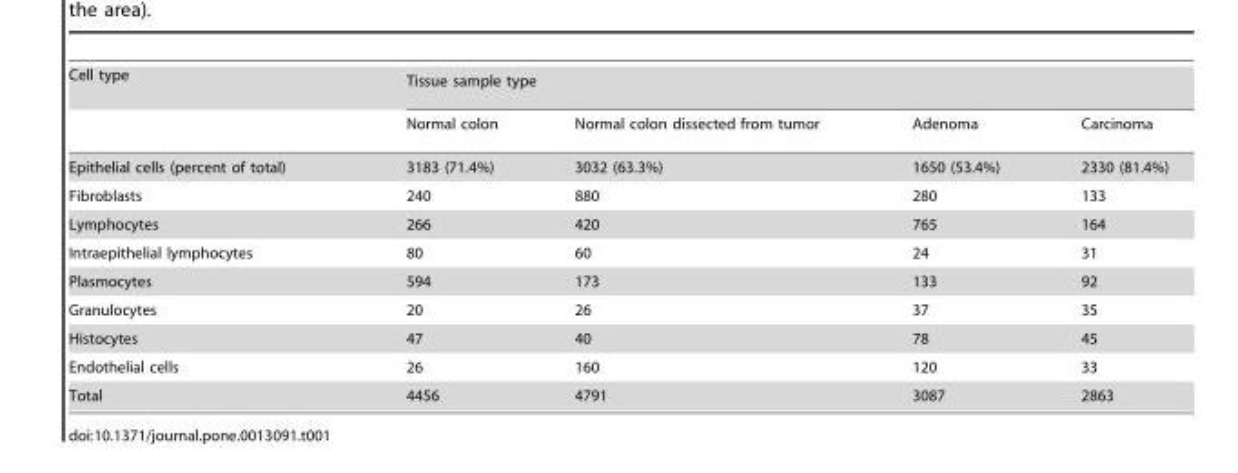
<table><tbody><tr><td rowspan="2">Cell type</td><td colspan="4">Tissue sample type</td></tr><tr><td>Normal colon</td><td>Normal colon dissected from tumor</td><td>Adenoma</td><td>Carcinoma</td></tr><tr><td>Epithelial cells (percent of total)</td><td>3183 (71.4%)</td><td>3032 (63.3%)</td><td>1650 (53.4%)</td><td>2330 (81.4%)</td></tr><tr><td>Fibroblasts</td><td>240</td><td>880</td><td>280</td><td>133</td></tr><tr><td>Lymphocytes</td><td>266</td><td>420</td><td>765</td><td>164</td></tr><tr><td>Intraepithelial lymphocytes</td><td>80</td><td>60</td><td>24</td><td>31</td></tr><tr><td>Plasmocytes</td><td>594</td><td>173</td><td>133</td><td>92</td></tr><tr><td>Granulocytes</td><td>20</td><td>26</td><td>37</td><td>35</td></tr><tr><td>Histocytes</td><td>47</td><td>40</td><td>78</td><td>45</td></tr><tr><td>Endothelial cells</td><td>26</td><td>160</td><td>120</td><td>33</td></tr><tr><td>Total</td><td>4456</td><td>4791</td><td>3087</td><td>2863</td></tr></tbody></table>